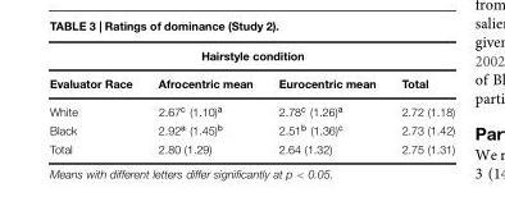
<table><thead><tr><td colspan="4">Hairstyle condition</td></tr><tr><td>Evaluator Race</td><td>Afrocentric mean</td><td>Eurocentric mean</td><td>Total</td></tr></thead><tbody><tr><td>White</td><td>2.67<sup>c</sup> (1.10)<sup>a</sup></td><td>2.78<sup>c</sup> (1.26)<sup>a</sup></td><td>2.72 (1.18)</td></tr><tr><td>Black</td><td>2.92<sup>a</sup> (1.45)<sup>b</sup></td><td>2.51<sup>b</sup> (1.36)<sup>c</sup></td><td>2.73 (1.42)</td></tr><tr><td>Total</td><td>2.80 (1.29)</td><td>2.64 (1.32)</td><td>2.75 (1.31)</td></tr></tbody></table>